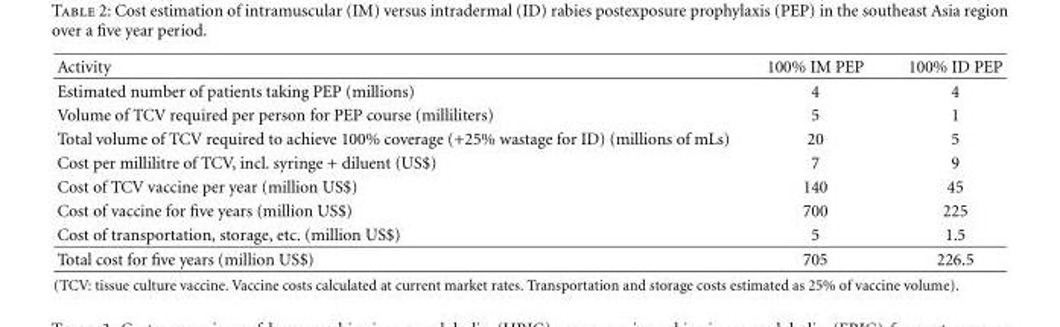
<table><thead><tr><td>Activity</td><td>100% IM PEP</td><td>100% ID PEP</td></tr></thead><tbody><tr><td>Estimated number of patients taking PEP (millions)</td><td>4</td><td>4</td></tr><tr><td>Volume of TCV required per person for PEP course (milliliters)</td><td>5</td><td>1</td></tr><tr><td>Total volume of TCV required to achieve 100% coverage (+25% wastage for ID) (millions of mLs)</td><td>20</td><td>5</td></tr><tr><td>Cost per millilitre of TCV, incl. syringe + diluent (US$)</td><td>7</td><td>9</td></tr><tr><td>Cost of TCV vaccine per year (million US$)</td><td>140</td><td>45</td></tr><tr><td>Cost of vaccine for five years (million US$)</td><td>700</td><td>225</td></tr><tr><td>Cost of transportation, storage, etc. (million US$)</td><td>5</td><td>1.5</td></tr><tr><td>Total cost for five years (million US$)</td><td>705</td><td>226.5</td></tr></tbody></table>